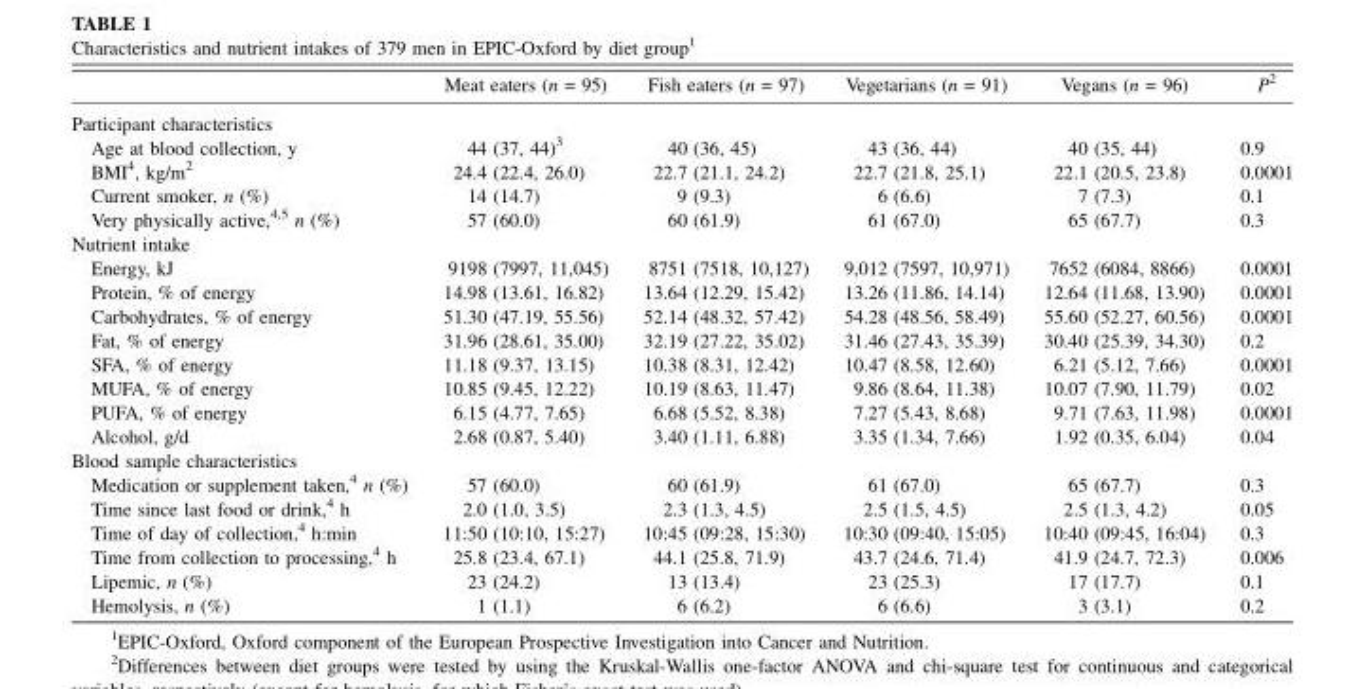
<table><thead><tr><td></td><td>Meat eaters (n = 95)</td><td>Fish eaters (n = 97)</td><td>Vegetarians (n = 91)</td><td>Vegans (n = 96)</td><td>P<sup>2</sup></td></tr></thead><tbody><tr><td colspan="6">Participant characteristics</td></tr><tr><td>Age at blood collection, y</td><td>44 (37, 44)<sup>3</sup></td><td>40 (36, 45)</td><td>43 (36, 44)</td><td>40 (35, 44)</td><td>0.9</td></tr><tr><td>BMI<sup>4</sup>, kg/m<sup>2</sup></td><td>24.4 (22.4, 26.0)</td><td>22.7 (21.1, 24.2)</td><td>22.7 (21.8, 25.1)</td><td>22.1 (20.5, 23.8)</td><td>0.0001</td></tr><tr><td>Current smoker, n (%)</td><td>14 (14.7)</td><td>9 (9.3)</td><td>6 (6.6)</td><td>7 (7.3)</td><td>0.1</td></tr><tr><td>Very physically active,<sup>4,5</sup> n (%)</td><td>57 (60.0)</td><td>60 (61.9)</td><td>61 (67.0)</td><td>65 (67.7)</td><td>0.3</td></tr><tr><td colspan="6">Nutrient intake</td></tr><tr><td>Energy, kJ</td><td>9198 (7997, 11,045)</td><td>8751 (7518, 10,127)</td><td>9,012 (7597, 10,971)</td><td>7652 (6084, 8866)</td><td>0.0001</td></tr><tr><td>Protein, % of energy</td><td>14.98 (13.61, 16.82)</td><td>13.64 (12.29, 15.42)</td><td>13.26 (11.86, 14.14)</td><td>12.64 (11.68, 13.90)</td><td>0.0001</td></tr><tr><td>Carbohydrates, % of energy</td><td>51.30 (47.19, 55.56)</td><td>52.14 (48.32, 57.42)</td><td>54.28 (48.56, 58.49)</td><td>55.60 (52.27, 60.56)</td><td>0.0001</td></tr><tr><td>Fat, % of energy</td><td>31.96 (28.61, 35.00)</td><td>32.19 (27.22, 35.02)</td><td>31.46 (27.43, 35.39)</td><td>30.40 (25.39, 34.30)</td><td>0.2</td></tr><tr><td>SFA, % of energy</td><td>11.18 (9.37, 13.15)</td><td>10.38 (8.31, 12.42)</td><td>10.47 (8.58, 12.60)</td><td>6.21 (5.12, 7.66)</td><td>0.0001</td></tr><tr><td>MUFA, % of energy</td><td>10.85 (9.45, 12.22)</td><td>10.19 (8.63, 11.47)</td><td>9.86 (8.64, 11.38)</td><td>10.07 (7.90, 11.79)</td><td>0.02</td></tr><tr><td>PUFA, % of energy</td><td>6.15 (4.77, 7.65)</td><td>6.68 (5.52, 8.38)</td><td>7.27 (5.43, 8.68)</td><td>9.71 (7.63, 11.98)</td><td>0.0001</td></tr><tr><td>Alcohol, g/d</td><td>2.68 (0.87, 5.40)</td><td>3.40 (1.11, 6.88)</td><td>3.35 (1.34, 7.66)</td><td>1.92 (0.35, 6.04)</td><td>0.04</td></tr><tr><td colspan="6">Blood sample characteristics</td></tr><tr><td>Medication or supplement taken,<sup>4</sup> n (%)</td><td>57 (60.0)</td><td>60 (61.9)</td><td>61 (67.0)</td><td>65 (67.7)</td><td>0.3</td></tr><tr><td>Time since last food or drink,<sup>4</sup> h</td><td>2.0 (1.0, 3.5)</td><td>2.3 (1.3, 4.5)</td><td>2.5 (1.5, 4.5)</td><td>2.5 (1.3, 4.2)</td><td>0.05</td></tr><tr><td>Time of day of collection,<sup>4</sup> h:min</td><td>11:50 (10:10, 15:27)</td><td>10:45 (09:28, 15:30)</td><td>10:30 (09:40, 15:05)</td><td>10:40 (09:45, 16:04)</td><td>0.3</td></tr><tr><td>Time from collection to processing,<sup>4</sup> h</td><td>25.8 (23.4, 67.1)</td><td>44.1 (25.8, 71.9)</td><td>43.7 (24.6, 71.4)</td><td>41.9 (24.7, 72.3)</td><td>0.006</td></tr><tr><td>Lipemic, n (%)</td><td>23 (24.2)</td><td>13 (13.4)</td><td>23 (25.3)</td><td>17 (17.7)</td><td>0.1</td></tr><tr><td>Hemolysis, n (%)</td><td>1 (1.1)</td><td>6 (6.2)</td><td>6 (6.6)</td><td>3 (3.1)</td><td>0.2</td></tr></tbody></table>